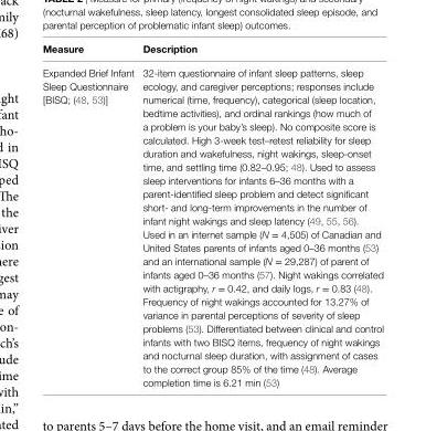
<table><thead><tr><td>Measure</td><td>description</td></tr></thead><tbody><tr><td>Expanded Brief Infant Sleep Questionnaire [BISQ; (48, 53)]</td><td>32-item questionnaire of infant sleep patterns, sleep ecology, and caregiver perceptions; responses include numerical (time, frequency), categorical (sleep location, bedtime activities), and ordinal rankings (how much of a problem is your baby’s sleep). No composite score is calculated. High 3-week test–retest reliability for sleep duration and wakefulness, night wakings, sleep-onset time, and settling time (0.82–0.95; 48). Used to assess sleep interventions for infants 6–36 months with a parent-identified sleep problem and detect significant short- and long-term improvements in the number of infant night wakings and sleep latency (49, 55, 56). Used in an internet sample (N = 4,505) of Canadian and United States parents of infants aged 0–36 months (53) and an international sample (N = 29,287) of parent of infants aged 0–36 months (57). Night wakings correlated with actigraphy, r = 0.42, and daily logs, r = 0.83 (48). Frequency of night wakings accounted for 13.27% of variance in parental perceptions of severity of sleep problems (53). Differentiated between clinical and control infants with two BISQ items, frequency of night wakings and nocturnal sleep duration, with assignment of cases to the correct group 85% of the time (48). Average completion time is 6.21 min (53)</td></tr></tbody></table>